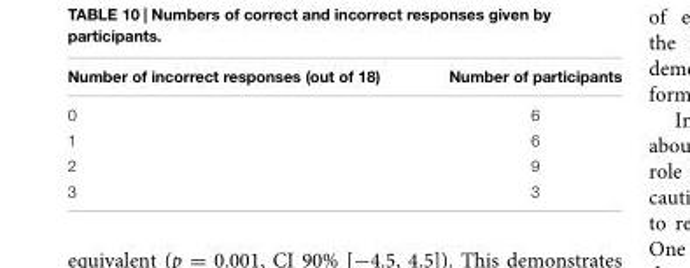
<table><thead><tr><td>Number of incorrect responses (out of 18)</td><td>Number of participants</td></tr></thead><tbody><tr><td>0</td><td>6</td></tr><tr><td>1</td><td>6</td></tr><tr><td>2</td><td>9</td></tr><tr><td>3</td><td>3</td></tr></tbody></table>